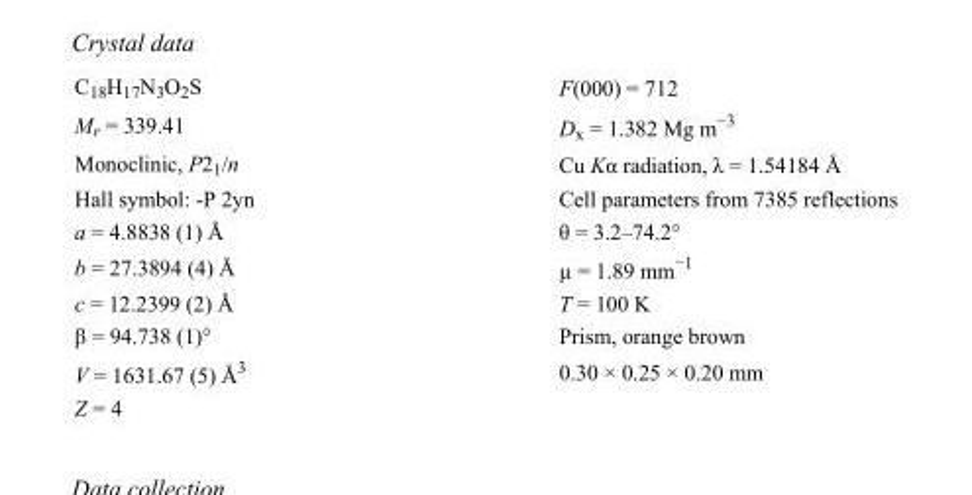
<table><tbody><tr><td>C<sub>18</sub>H<sub>17</sub>N<sub>3</sub>O<sub>2</sub>S</td><td>F(000) = 712</td></tr><tr><td>M<sub>r</sub> = 339.41</td><td>D<sub>x</sub> = 1.382 Mg m<sup>−3</sup></td></tr><tr><td>Monoclinic, P2<sub>1</sub>/n</td><td>Cu Kα radiation, λ = 1.54184 Å</td></tr><tr><td>Hall symbol: -P 2yn</td><td>Cell parameters from 7385 reflections</td></tr><tr><td>a = 4.8838 (1) Å</td><td>θ = 3.2–74.2°</td></tr><tr><td>b = 27.3894 (4) Å</td><td>µ = 1.89 mm<sup>−1</sup></td></tr><tr><td>c = 12.2399 (2) Å</td><td>T = 100 K</td></tr><tr><td>β = 94.738 (1)°</td><td>Prism, orange brown</td></tr><tr><td>V = 1631.67 (5) Å<sup>3</sup></td><td>0.30 × 0.25 × 0.20 mm</td></tr><tr><td>Z = 4</td><td></td></tr></tbody></table>